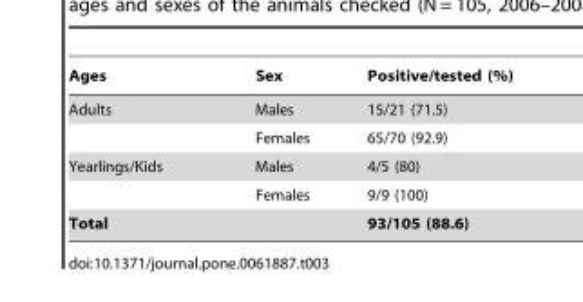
<table><thead><tr><td>Ages</td><td>Sex</td><td>Positive/tested (%)</td></tr></thead><tbody><tr><td rowspan="2">Adults</td><td>Males</td><td>15/21 (71.5)</td></tr><tr><td>Females</td><td>65/70 (92.9)</td></tr><tr><td rowspan="2">Yearlings/Kids</td><td>Males</td><td>4/5 (80)</td></tr><tr><td>Females</td><td>9/9 (100)</td></tr><tr><td>Total</td><td></td><td>93/105 (88.6)</td></tr></tbody></table>